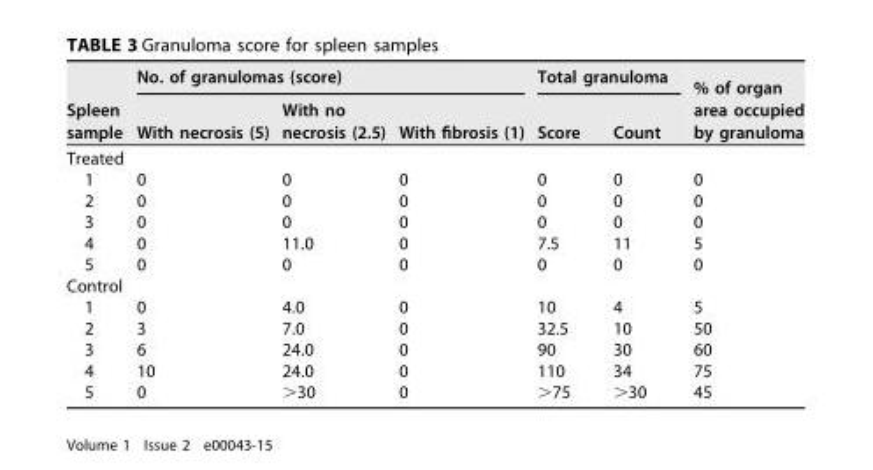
<table><thead><tr><td rowspan="2">Spleen sample</td><td colspan="3">No. of granulomas (score)</td><td colspan="2">Total granuloma</td><td rowspan="2">% of organ area occupied by granuloma</td></tr><tr><td>With necrosis (5)</td><td>With no necrosis (2.5)</td><td>With fibrosis (1)</td><td>Score</td><td>Count</td></tr></thead><tbody><tr><td colspan="7">Treated</td></tr><tr><td>1</td><td>0</td><td>0</td><td>0</td><td>0</td><td>0</td><td>0</td></tr><tr><td>2</td><td>0</td><td>0</td><td>0</td><td>0</td><td>0</td><td>0</td></tr><tr><td>3</td><td>0</td><td>0</td><td>0</td><td>0</td><td>0</td><td>0</td></tr><tr><td>4</td><td>0</td><td>11.0</td><td>0</td><td>7.5</td><td>11</td><td>5</td></tr><tr><td>5</td><td>0</td><td>0</td><td>0</td><td>0</td><td>0</td><td>0</td></tr><tr><td colspan="7">Control</td></tr><tr><td>1</td><td>0</td><td>4.0</td><td>0</td><td>10</td><td>4</td><td>5</td></tr><tr><td>2</td><td>3</td><td>7.0</td><td>0</td><td>32.5</td><td>10</td><td>50</td></tr><tr><td>3</td><td>6</td><td>24.0</td><td>0</td><td>90</td><td>30</td><td>60</td></tr><tr><td>4</td><td>10</td><td>24.0</td><td>0</td><td>110</td><td>34</td><td>75</td></tr><tr><td>5</td><td>0</td><td>&gt;30</td><td>0</td><td>&gt;75</td><td>&gt;30</td><td>45</td></tr></tbody></table>